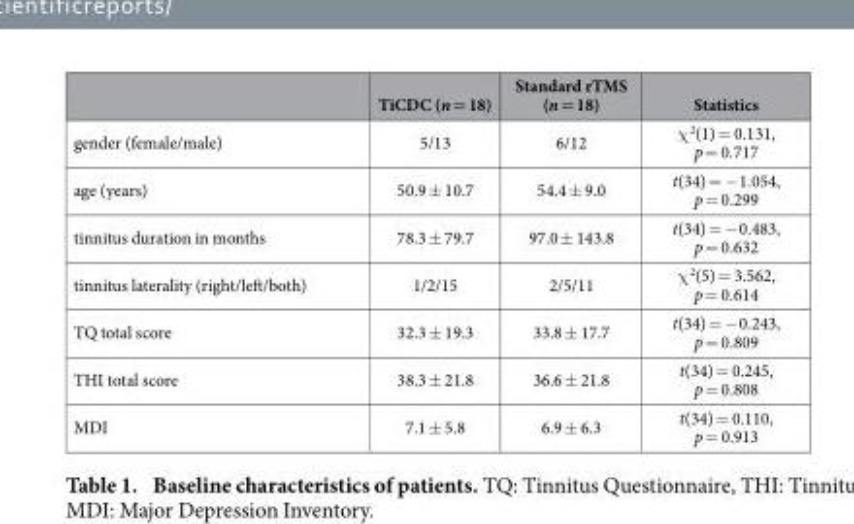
<table><thead><tr><td></td><td>TiCDC (n = 18)</td><td>Standard rTMS (n = 18)</td><td>Statistics</td></tr></thead><tbody><tr><td>gender (female/male)</td><td>5/13</td><td>6/12</td><td>χ <sup>2</sup>(1) = 0.131, p = 0.717</td></tr><tr><td>age (years)</td><td>50.9 ± 10.7</td><td>54.4 ± 9.0</td><td>t(34) = − 1.054, p = 0.299</td></tr><tr><td>tinnitus duration in months</td><td>78.3 ± 79.7</td><td>97.0 ± 143.8</td><td>t(34) = − 0.483, p = 0.632</td></tr><tr><td>tinnitus laterality (right/left/both)</td><td>1/2/15</td><td>2/5/11</td><td>χ <sup>2</sup>(5) = 3.562, p = 0.614</td></tr><tr><td>TQ total score</td><td>32.3 ± 19.3</td><td>33.8 ± 17.7</td><td>t(34) = − 0.243, p = 0.809</td></tr><tr><td>THI total score</td><td>38.3 ± 21.8</td><td>36.6 ± 21.8</td><td>t(34) = 0.245, p = 0.808</td></tr><tr><td>MDI</td><td>7.1 ± 5.8</td><td>6.9 ± 6.3</td><td>t(34) = 0.110, p = 0.913</td></tr></tbody></table>